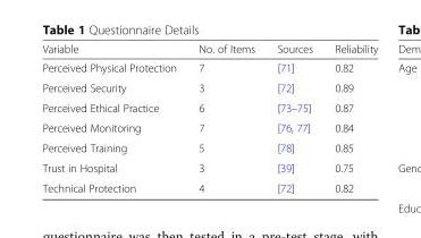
<table><thead><tr><td>Variable</td><td>No. of Items</td><td>Sources</td><td>Reliability</td></tr></thead><tbody><tr><td>Perceived Physical Protection</td><td>7</td><td>[71]</td><td>0.82</td></tr><tr><td>Perceived Security</td><td>3</td><td>[72]</td><td>0.89</td></tr><tr><td>Perceived Ethical Practice</td><td>6</td><td>[73–75]</td><td>0.87</td></tr><tr><td>Perceived Monitoring</td><td>7</td><td>[76, 77]</td><td>0.84</td></tr><tr><td>Perceived Training</td><td>5</td><td>[78]</td><td>0.85</td></tr><tr><td>Trust in Hospital</td><td>3</td><td>[39]</td><td>0.75</td></tr><tr><td>Technical Protection</td><td>4</td><td>[72]</td><td>0.82</td></tr></tbody></table>